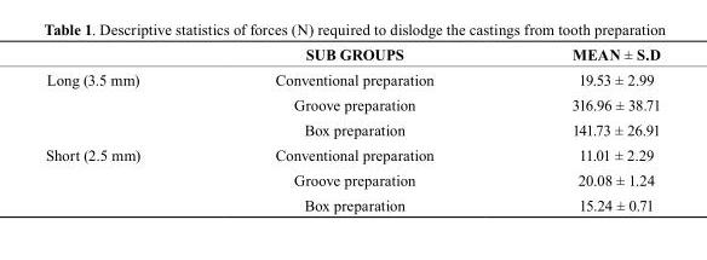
<table><thead><tr><td></td><td>sUb GrOUPs</td><td>MEAN ± s.D</td></tr></thead><tbody><tr><td rowspan="3">Long (3.5 mm)</td><td>Conventional preparation</td><td>19.53 ± 2.99</td></tr><tr><td>Groove preparation</td><td>316.96 ± 38.71</td></tr><tr><td>Box preparation</td><td>141.73 ± 26.91</td></tr><tr><td rowspan="3">Short (2.5 mm)</td><td>Conventional preparation</td><td>11.01 ± 2.29</td></tr><tr><td>Groove preparation</td><td>20.08 ± 1.24</td></tr><tr><td>Box preparation</td><td>15.24 ± 0.71</td></tr></tbody></table>